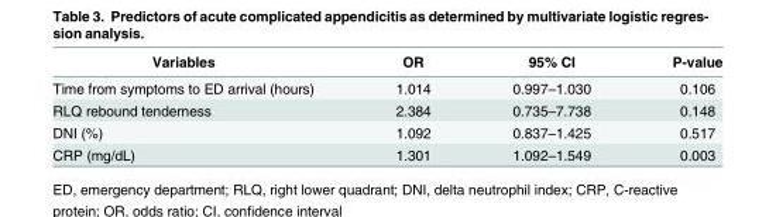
<table><thead><tr><td>Variables</td><td>OR</td><td>95% CI</td><td>P-value</td></tr></thead><tbody><tr><td>Time from symptoms to ED arrival (hours)</td><td>1.014</td><td>0.997–1.030</td><td>0.106</td></tr><tr><td>RLQ rebound tenderness</td><td>2.384</td><td>0.735–7.738</td><td>0.148</td></tr><tr><td>DNI (%)</td><td>1.092</td><td>0.837–1.425</td><td>0.517</td></tr><tr><td>CRP (mg/dL)</td><td>1.301</td><td>1.092–1.549</td><td>0.003</td></tr></tbody></table>